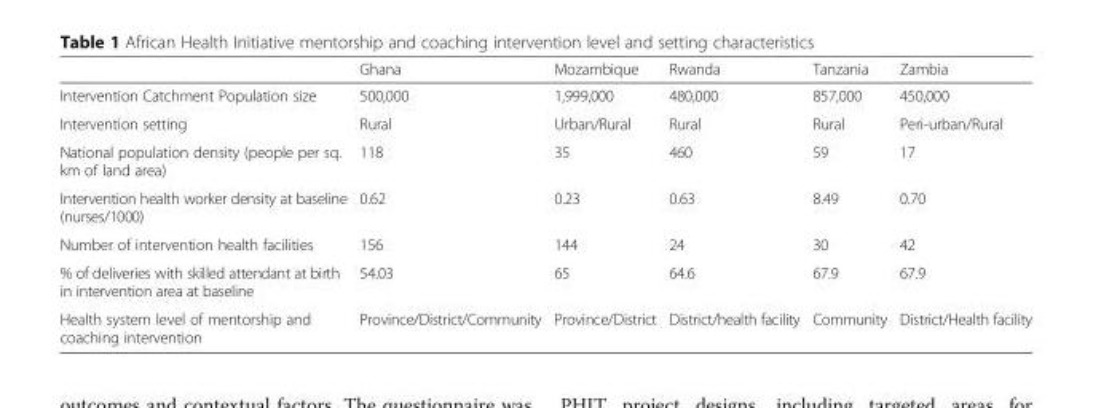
<table><thead><tr><td></td><td>Ghana</td><td>Mozambique</td><td>Rwanda</td><td>Tanzania</td><td>Zambia</td></tr></thead><tbody><tr><td>Intervention Catchment Population size</td><td>500,000</td><td>1,999,000</td><td>480,000</td><td>857,000</td><td>450,000</td></tr><tr><td>Intervention setting</td><td>Rural</td><td>Urban/Rural</td><td>Rural</td><td>Rural</td><td>Peri-urban/Rural</td></tr><tr><td>National population density (people per sq. km of land area)</td><td>118</td><td>35</td><td>460</td><td>59</td><td>17</td></tr><tr><td>Intervention health worker density at baseline (nurses/1000)</td><td>0.62</td><td>0.23</td><td>0.63</td><td>8.49</td><td>0.70</td></tr><tr><td>Number of intervention health facilities</td><td>156</td><td>144</td><td>24</td><td>30</td><td>42</td></tr><tr><td>% of deliveries with skilled attendant at birth in intervention area at baseline</td><td>54.03</td><td>65</td><td>64.6</td><td>67.9</td><td>67.9</td></tr><tr><td>Health system level of mentorship and coaching intervention</td><td>Province/District/Community</td><td>Province/District</td><td>District/health facility</td><td>Community</td><td>District/Health facility</td></tr></tbody></table>